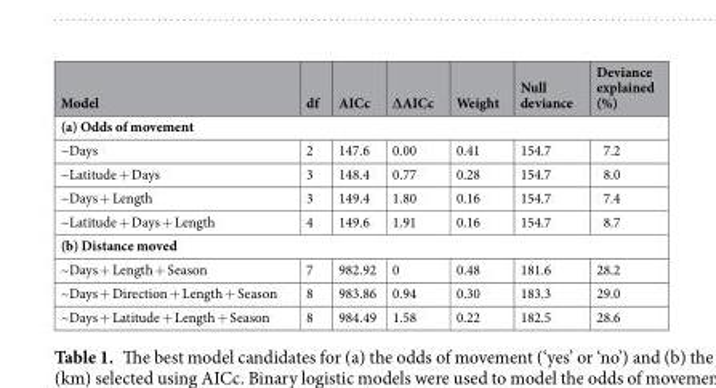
<table><thead><tr><td>Model</td><td>df</td><td>AICc</td><td>∆AICc</td><td>Weight</td><td>Null deviance</td><td>Deviance explained (%)</td></tr></thead><tbody><tr><td colspan="7">(a) Odds of movement</td></tr><tr><td>~Days</td><td>2</td><td>147.6</td><td>0.00</td><td>0.41</td><td>154.7</td><td>7.2</td></tr><tr><td>~Latitude + Days</td><td>3</td><td>148.4</td><td>0.77</td><td>0.28</td><td>154.7</td><td>8.0</td></tr><tr><td>~Days + Length</td><td>3</td><td>149.4</td><td>1.80</td><td>0.16</td><td>154.7</td><td>7.4</td></tr><tr><td>~Latitude + Days + Length</td><td>4</td><td>149.6</td><td>1.91</td><td>0.16</td><td>154.7</td><td>8.7</td></tr><tr><td colspan="7">(b) Distance moved</td></tr><tr><td>~Days + Length + Season</td><td>7</td><td>982.92</td><td>0</td><td>0.48</td><td>181.6</td><td>28.2</td></tr><tr><td>~Days + Direction + Length + Season</td><td>8</td><td>983.86</td><td>0.94</td><td>0.30</td><td>183.3</td><td>29.0</td></tr><tr><td>~Days + Latitude + Length + Season</td><td>8</td><td>984.49</td><td>1.58</td><td>0.22</td><td>182.5</td><td>28.6</td></tr></tbody></table>